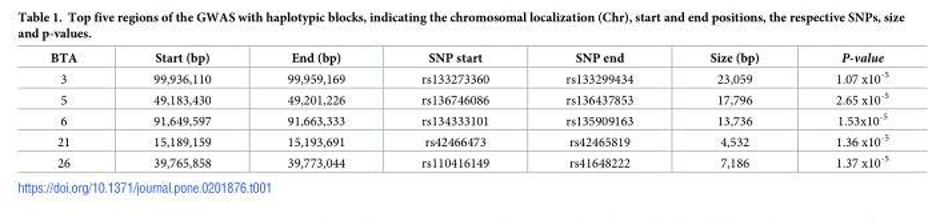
<table><thead><tr><td>BTA</td><td>Start (bp)</td><td>End (bp)</td><td>SNP start</td><td>SNP end</td><td>Size (bp)</td><td>P-value</td></tr></thead><tbody><tr><td>3</td><td>99,936,110</td><td>99,959,169</td><td>rs133273360</td><td>rs133299434</td><td>23,059</td><td>1.07 x10<sup>-5</sup></td></tr><tr><td>5</td><td>49,183,430</td><td>49,201,226</td><td>rs136746086</td><td>rs136437853</td><td>17,796</td><td>2.65 x10<sup>-5</sup></td></tr><tr><td>6</td><td>91,649,597</td><td>91,663,333</td><td>rs134333101</td><td>rs135909163</td><td>13,736</td><td>1.53x10<sup>-5</sup></td></tr><tr><td>21</td><td>15,189,159</td><td>15,193,691</td><td>rs42466473</td><td>rs42465819</td><td>4,532</td><td>1.36 x10<sup>-5</sup></td></tr><tr><td>26</td><td>39,765,858</td><td>39,773,044</td><td>rs110416149</td><td>rs41648222</td><td>7,186</td><td>1.37 x10<sup>-5</sup></td></tr></tbody></table>